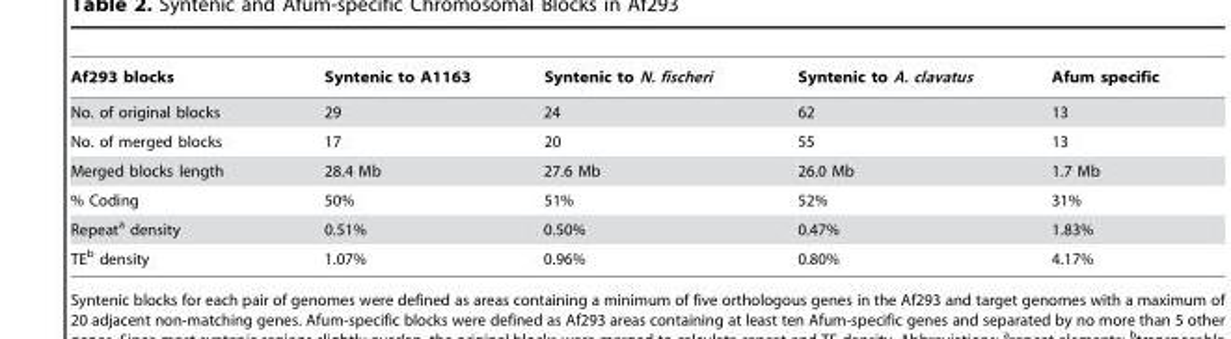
<table><thead><tr><td>Af293 blocks</td><td>Syntenic to A1163</td><td>Syntenic to N. fischeri</td><td>Syntenic to A. clavatus</td><td>Afum specific</td></tr></thead><tbody><tr><td>No. of original blocks</td><td>29</td><td>24</td><td>62</td><td>13</td></tr><tr><td>No. of merged blocks</td><td>17</td><td>20</td><td>55</td><td>13</td></tr><tr><td>Merged blocks length</td><td>28.4 Mb</td><td>27.6 Mb</td><td>26.0 Mb</td><td>1.7 Mb</td></tr><tr><td>% Coding</td><td>50%</td><td>51%</td><td>52%</td><td>31%</td></tr><tr><td>Repeat<sup>a</sup> density</td><td>0.51%</td><td>0.50%</td><td>0.47%</td><td>1.83%</td></tr><tr><td>TE<sup>b</sup> density</td><td>1.07%</td><td>0.96%</td><td>0.80%</td><td>4.17%</td></tr></tbody></table>